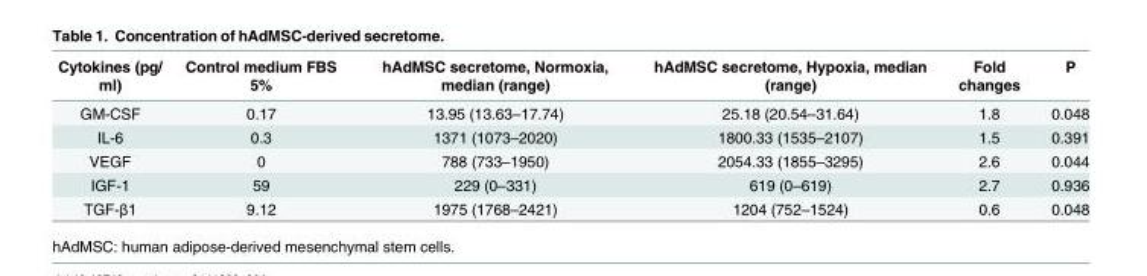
<table><thead><tr><td>Cytokines (pg/ ml)</td><td>Control medium FBS 5%</td><td>hAdMSC secretome, Normoxia, median (range)</td><td>hAdMSC secretome, Hypoxia, median (range)</td><td>Fold changes</td><td>P</td></tr></thead><tbody><tr><td>GM-CSF</td><td>0.17</td><td>13.95 (13.63–17.74)</td><td>25.18 (20.54–31.64)</td><td>1.8</td><td>0.048</td></tr><tr><td>IL-6</td><td>0.3</td><td>1371 (1073–2020)</td><td>1800.33 (1535–2107)</td><td>1.5</td><td>0.391</td></tr><tr><td>VEGF</td><td>0</td><td>788 (733–1950)</td><td>2054.33 (1855–3295)</td><td>2.6</td><td>0.044</td></tr><tr><td>IGF-1</td><td>59</td><td>229 (0–331)</td><td>619 (0–619)</td><td>2.7</td><td>0.936</td></tr><tr><td>TGF-β1</td><td>9.12</td><td>1975 (1768–2421)</td><td>1204 (752–1524)</td><td>0.6</td><td>0.048</td></tr></tbody></table>